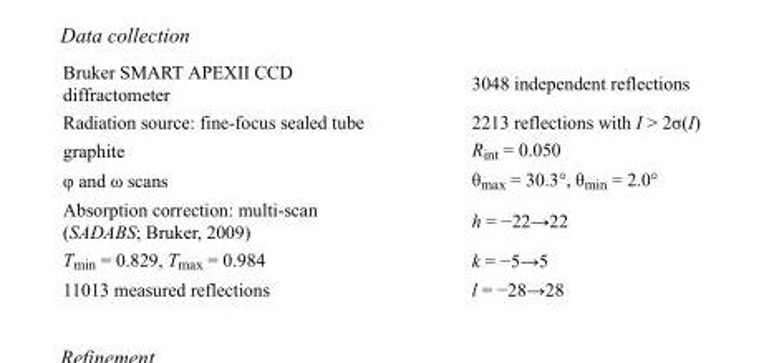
<table><tbody><tr><td>Bruker SMART APEXII CCD diffractometer</td><td>3048 independent reflections</td></tr><tr><td>Radiation source: fine-focus sealed tube</td><td>2213 reflections with I &gt; 2σ(I)</td></tr><tr><td>graphite</td><td>R<sub>int</sub> = 0.050</td></tr><tr><td>φ and ω scans</td><td>θ<sub>max</sub> = 30.3°, θ<sub>min</sub> = 2.0°</td></tr><tr><td>Absorption correction: multi-scan (SADABS; Bruker, 2009)</td><td>h = −22→22</td></tr><tr><td>T<sub>min</sub> = 0.829, T<sub>max</sub> = 0.984</td><td>k = −5→5</td></tr><tr><td>11013 measured reflections</td><td>l = −28→28</td></tr></tbody></table>